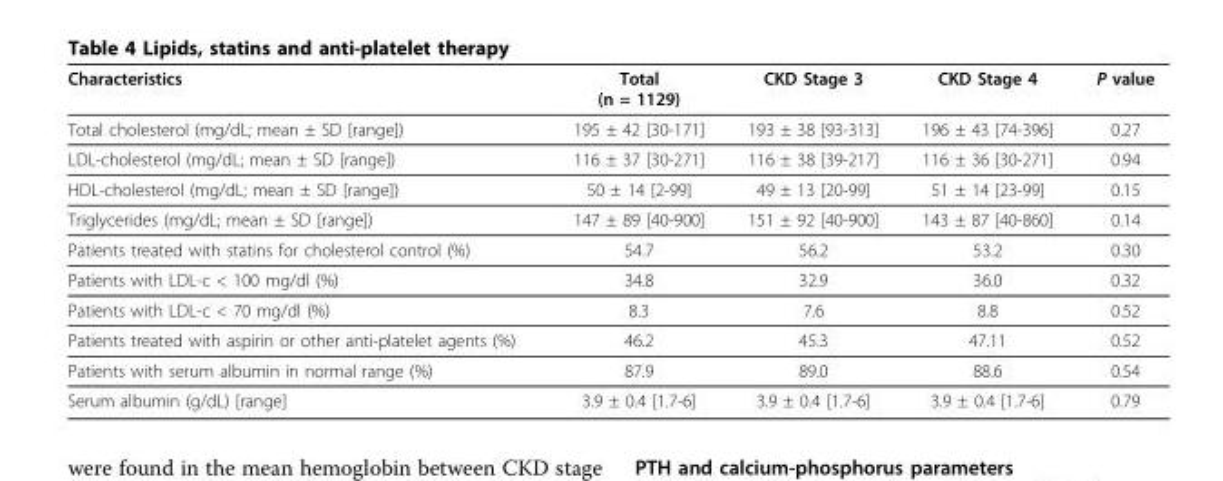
<table><thead><tr><td>Characteristics</td><td>Total (n = 1129)</td><td>CKD Stage 3</td><td>CKD Stage 4</td><td>P value</td></tr></thead><tbody><tr><td>Total cholesterol (mg/dL; mean ± SD [range])</td><td>195 ± 42 [30-171]</td><td>193 ± 38 [93-313]</td><td>196 ± 43 [74-396]</td><td>0.27</td></tr><tr><td>LDL-cholesterol (mg/dL; mean ± SD [range])</td><td>116 ± 37 [30-271]</td><td>116 ± 38 [39-217]</td><td>116 ± 36 [30-271]</td><td>0.94</td></tr><tr><td>HDL-cholesterol (mg/dL; mean ± SD [range])</td><td>50 ± 14 [2-99]</td><td>49 ± 13 [20-99]</td><td>51 ± 14 [23-99]</td><td>0.15</td></tr><tr><td>Triglycerides (mg/dL; mean ± SD [range])</td><td>147 ± 89 [40-900]</td><td>151 ± 92 [40-900]</td><td>143 ± 87 [40-860]</td><td>0.14</td></tr><tr><td>Patients treated with statins for cholesterol control (%)</td><td>54.7</td><td>56.2</td><td>53.2</td><td>0.30</td></tr><tr><td>Patients with LDL-c &lt; 100 mg/dl (%)</td><td>34.8</td><td>32.9</td><td>36.0</td><td>0.32</td></tr><tr><td>Patients with LDL-c &lt; 70 mg/dl (%)</td><td>8.3</td><td>7.6</td><td>8.8</td><td>0.52</td></tr><tr><td>Patients treated with aspirin or other anti-platelet agents (%)</td><td>46.2</td><td>45.3</td><td>47.11</td><td>0.52</td></tr><tr><td>Patients with serum albumin in normal range (%)</td><td>87.9</td><td>89.0</td><td>88.6</td><td>0.54</td></tr><tr><td>Serum albumin (g/dL) [range]</td><td>3.9 ± 0.4 [1.7-6]</td><td>3.9 ± 0.4 [1.7-6]</td><td>3.9 ± 0.4 [1.7-6]</td><td>0.79</td></tr></tbody></table>